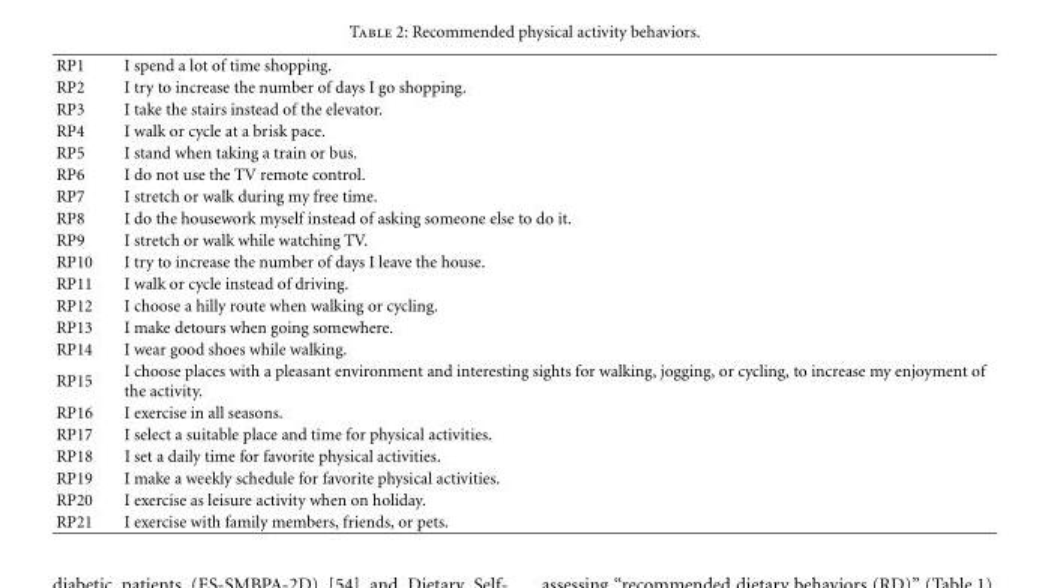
<table><tbody><tr><td>RP1</td><td>I spend a lot of time shopping.</td></tr><tr><td>RP2</td><td>I try to increase the number of days I go shopping.</td></tr><tr><td>RP3</td><td>I take the stairs instead of the elevator.</td></tr><tr><td>RP4</td><td>I walk or cycle at a brisk pace.</td></tr><tr><td>RP5</td><td>I stand when taking a train or bus.</td></tr><tr><td>RP6</td><td>I do not use the TV remote control.</td></tr><tr><td>RP7</td><td>I stretch or walk during my free time.</td></tr><tr><td>RP8</td><td>I do the housework myself instead of asking someone else to do it.</td></tr><tr><td>RP9</td><td>I stretch or walk while watching TV.</td></tr><tr><td>RP10</td><td>I try to increase the number of days I leave the house.</td></tr><tr><td>RP11</td><td>I walk or cycle instead of driving.</td></tr><tr><td>RP12</td><td>I choose a hilly route when walking or cycling.</td></tr><tr><td>RP13</td><td>I make detours when going somewhere.</td></tr><tr><td>RP14</td><td>I wear good shoes while walking.</td></tr><tr><td>RP15</td><td>I choose places with a pleasant environment and interesting sights for walking, jogging, or cycling, to increase my enjoyment of the activity.</td></tr><tr><td>RP16</td><td>I exercise in all seasons.</td></tr><tr><td>RP17</td><td>I select a suitable place and time for physical activities.</td></tr><tr><td>RP18</td><td>I set a daily time for favorite physical activities.</td></tr><tr><td>RP19</td><td>I make a weekly schedule for favorite physical activities.</td></tr><tr><td>RP20</td><td>I exercise as leisure activity when on holiday.</td></tr><tr><td>RP21</td><td>I exercise with family members, friends, or pets.</td></tr></tbody></table>